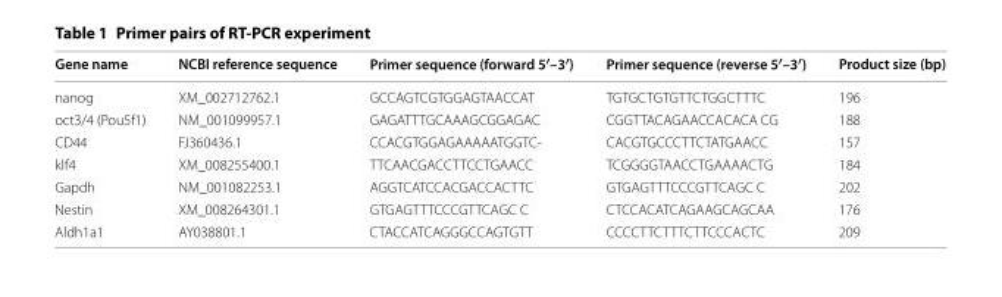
<table><thead><tr><td>Gene name</td><td>NCBI reference sequence</td><td>Primer sequence (forward 5′–3′)</td><td>Primer sequence (reverse 5′–3′)</td><td>Product size (bp)</td></tr></thead><tbody><tr><td>nanog</td><td>XM_002712762.1</td><td>GCCAGTCGTGGAGTAACCAT</td><td>TGTGCTGTGTTCTGGCTTTC</td><td>196</td></tr><tr><td>oct3/4 (Pou5f1)</td><td>NM_001099957.1</td><td>GAGATTTGCAAAGCGGAGAC</td><td>CGGTTACAGAACCACACA CG</td><td>188</td></tr><tr><td>CD44</td><td>FJ360436.1</td><td>CCACGTGGAGAAAAATGGTC-</td><td>CACGTGCCCTTCTATGAACC</td><td>157</td></tr><tr><td>klf4</td><td>XM_008255400.1</td><td>TTCAACGACCTTCCTGAACC</td><td>TCGGGGTAACCTGAAAACTG</td><td>184</td></tr><tr><td>Gapdh</td><td>NM_001082253.1</td><td>AGGTCATCCACGACCACTTC</td><td>GTGAGTTTCCCGTTCAGC C</td><td>202</td></tr><tr><td>Nestin</td><td>XM_008264301.1</td><td>GTGAGTTTCCCGTTCAGC C</td><td>CTCCACATCAGAAGCAGCAA</td><td>176</td></tr><tr><td>Aldh1a1</td><td>AY038801.1</td><td>CTACCATCAGGGCCAGTGTT</td><td>CCCCTTCTTTCTTCCCACTC</td><td>209</td></tr></tbody></table>